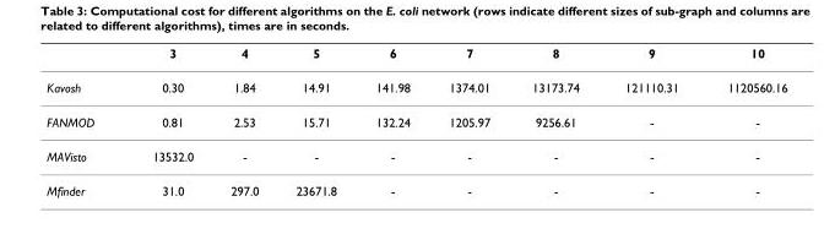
<table><thead><tr><td></td><td>3</td><td>4</td><td>5</td><td>6</td><td>7</td><td>8</td><td>9</td><td>10</td></tr></thead><tbody><tr><td>Kavosh</td><td>0.30</td><td>1.84</td><td>14.91</td><td>141.98</td><td>1374.01</td><td>13173.74</td><td>121110.31</td><td>1120560.16</td></tr><tr><td>FANMOD</td><td>0.81</td><td>2.53</td><td>15.71</td><td>132.24</td><td>1205.97</td><td>9256.61</td><td>-</td><td>-</td></tr><tr><td>MAVisto</td><td>13532.0</td><td>-</td><td>-</td><td>-</td><td>-</td><td>-</td><td>-</td><td>-</td></tr><tr><td>Mfinder</td><td>31.0</td><td>297.0</td><td>23671.8</td><td>-</td><td>-</td><td>-</td><td>-</td><td>-</td></tr></tbody></table>